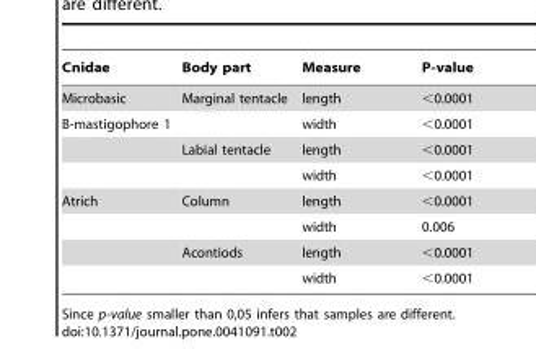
<table><thead><tr><td>Cnidae</td><td>Body part</td><td>Measure</td><td>P-value</td></tr></thead><tbody><tr><td>Microbasic</td><td>Marginal tentacle</td><td>length</td><td>&lt;0.0001</td></tr><tr><td rowspan="3">B-mastigophore 1</td><td></td><td>width</td><td>&lt;0.0001</td></tr><tr><td>Labial tentacle</td><td>length</td><td>&lt;0.0001</td></tr><tr><td></td><td>width</td><td>&lt;0.0001</td></tr><tr><td rowspan="4">Atrich</td><td>Column</td><td>length</td><td>&lt;0.0001</td></tr><tr><td></td><td>width</td><td>0.006</td></tr><tr><td>Acontiods</td><td>length</td><td>&lt;0.0001</td></tr><tr><td></td><td>width</td><td>&lt;0.0001</td></tr></tbody></table>